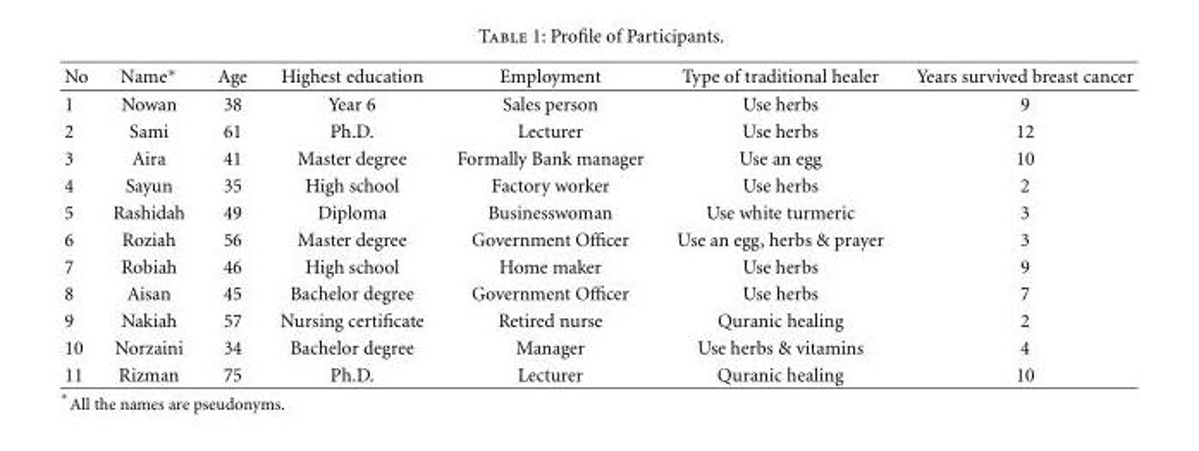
<table><thead><tr><td>No</td><td>Name∗</td><td>Age</td><td>Highest education</td><td>Employment</td><td>Type of traditional healer</td><td>Years survived breast cancer</td></tr></thead><tbody><tr><td>1</td><td>Nowan</td><td>38</td><td>Year 6</td><td>Sales person</td><td>Use herbs</td><td>9</td></tr><tr><td>2</td><td>Sami</td><td>61</td><td>Ph.D.</td><td>Lecturer</td><td>Use herbs</td><td>12</td></tr><tr><td>3</td><td>Aira</td><td>41</td><td>Master degree</td><td>Formally Bank manager</td><td>Use an egg</td><td>10</td></tr><tr><td>4</td><td>Sayun</td><td>35</td><td>High school</td><td>Factory worker</td><td>Use herbs</td><td>2</td></tr><tr><td>5</td><td>Rashidah</td><td>49</td><td>Diploma</td><td>Businesswoman</td><td>Use white turmeric</td><td>3</td></tr><tr><td>6</td><td>Roziah</td><td>56</td><td>Master degree</td><td>Government Officer</td><td>Use an egg, herbs &amp; prayer</td><td>3</td></tr><tr><td>7</td><td>Robiah</td><td>46</td><td>High school</td><td>Home maker</td><td>Use herbs</td><td>9</td></tr><tr><td>8</td><td>Aisan</td><td>45</td><td>Bachelor degree</td><td>Government Officer</td><td>Use herbs</td><td>7</td></tr><tr><td>9</td><td>Nakiah</td><td>57</td><td>Nursing certificate</td><td>Retired nurse</td><td>Quranic healing</td><td>2</td></tr><tr><td>10</td><td>Norzaini</td><td>34</td><td>Bachelor degree</td><td>Manager</td><td>Use herbs &amp; vitamins</td><td>4</td></tr><tr><td>11</td><td>Rizman</td><td>75</td><td>Ph.D.</td><td>Lecturer</td><td>Quranic healing</td><td>10</td></tr></tbody></table>